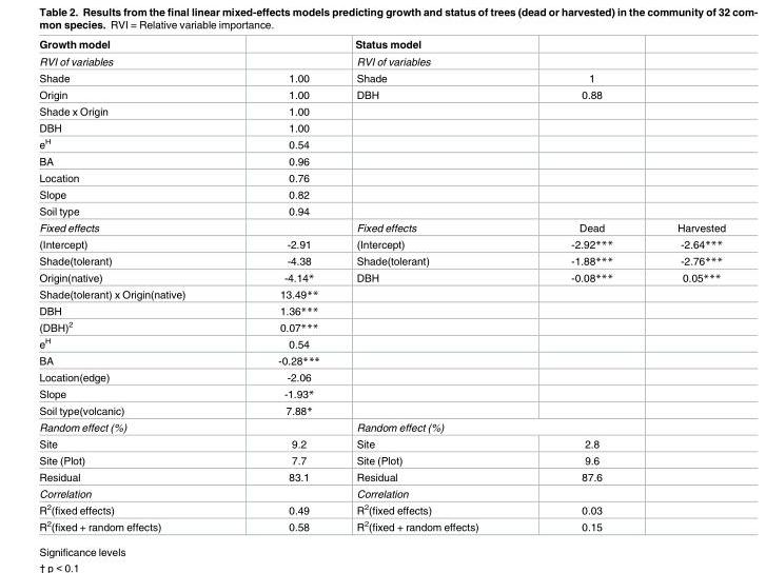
<table><thead><tr><td>Growth model</td><td></td><td>Status model</td><td></td><td></td></tr></thead><tbody><tr><td>RVI of variables</td><td></td><td>RVI of variables</td><td></td><td></td></tr><tr><td>Shade</td><td>1.00</td><td>Shade</td><td>1</td><td></td></tr><tr><td>Origin</td><td>1.00</td><td>DBH</td><td>0.88</td><td></td></tr><tr><td>Shade x Origin</td><td>1.00</td><td></td><td></td><td></td></tr><tr><td>DBH</td><td>1.00</td><td></td><td></td><td></td></tr><tr><td>e<sup>H</sup></td><td>0.54</td><td></td><td></td><td></td></tr><tr><td>BA</td><td>0.96</td><td></td><td></td><td></td></tr><tr><td>Location</td><td>0.76</td><td></td><td></td><td></td></tr><tr><td>Slope</td><td>0.82</td><td></td><td></td><td></td></tr><tr><td>Soil type</td><td>0.94</td><td></td><td></td><td></td></tr><tr><td>Fixed effects</td><td></td><td>Fixed effects</td><td>Dead</td><td>Harvested</td></tr><tr><td>(Intercept)</td><td>-2.91</td><td>(Intercept)</td><td>-2.92***</td><td>-2.64***</td></tr><tr><td>Shade(tolerant)</td><td>-4.38</td><td>Shade(tolerant)</td><td>-1.88***</td><td>-2.76***</td></tr><tr><td>Origin(native)</td><td>-4.14*</td><td>DBH</td><td>-0.08***</td><td>0.05***</td></tr><tr><td>Shade(tolerant) x Origin(native)</td><td>13.49**</td><td></td><td></td><td></td></tr><tr><td>DBH</td><td>1.36***</td><td></td><td></td><td></td></tr><tr><td>(DBH)<sup>2</sup></td><td>0.07***</td><td></td><td></td><td></td></tr><tr><td>e<sup>H</sup></td><td>0.54</td><td></td><td></td><td></td></tr><tr><td>BA</td><td>-0.28***</td><td></td><td></td><td></td></tr><tr><td>Location(edge)</td><td>-2.06</td><td></td><td></td><td></td></tr><tr><td>Slope</td><td>-1.93*</td><td></td><td></td><td></td></tr><tr><td>Soil type(volcanic)</td><td>7.88*</td><td></td><td></td><td></td></tr><tr><td>Random effect (%)</td><td></td><td colspan="2">Random effect (%)</td><td></td></tr><tr><td>Site</td><td>9.2</td><td>Site</td><td>2.8</td><td></td></tr><tr><td>Site (Plot)</td><td>7.7</td><td>Site (Plot)</td><td>9.6</td><td></td></tr><tr><td>Residual</td><td>83.1</td><td>Residual</td><td>87.6</td><td></td></tr><tr><td>Correlation</td><td></td><td>Correlation</td><td></td><td></td></tr><tr><td>R<sup>2</sup>(fixed effects)</td><td>0.49</td><td>R<sup>2</sup>(fixed effects)</td><td>0.03</td><td></td></tr><tr><td>R<sup>2</sup>(fixed + random effects)</td><td>0.58</td><td>R<sup>2</sup>(fixed + random effects)</td><td>0.15</td><td></td></tr></tbody></table>